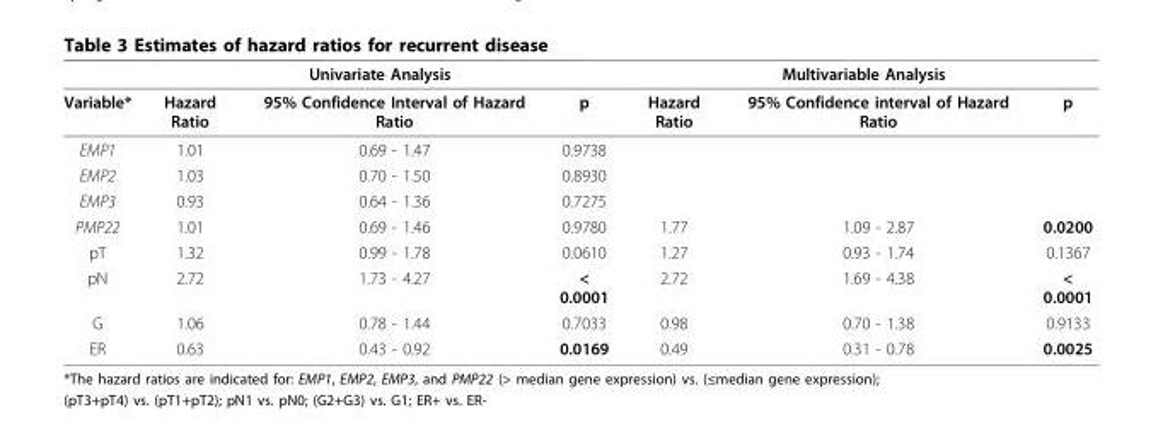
<table><thead><tr><td rowspan="2">Variable*</td><td colspan="3">Univariate Analysis</td><td colspan="3">Multivariable Analysis</td></tr><tr><td>Hazard Ratio</td><td>95% Confidence Interval of Hazard Ratio</td><td>p</td><td>Hazard Ratio</td><td>95% Confidence interval of Hazard Ratio</td><td>p</td></tr></thead><tbody><tr><td>EMP1</td><td>1.01</td><td>0.69 - 1.47</td><td>0.9738</td><td></td><td></td><td></td></tr><tr><td>EMP2</td><td>1.03</td><td>0.70 - 1.50</td><td>0.8930</td><td></td><td></td><td></td></tr><tr><td>EMP3</td><td>0.93</td><td>0.64 - 1.36</td><td>0.7275</td><td></td><td></td><td></td></tr><tr><td>PMP22</td><td>1.01</td><td>0.69 - 1.46</td><td>0.9780</td><td>1.77</td><td>1.09 - 2.87</td><td>0.0200</td></tr><tr><td>pT</td><td>1.32</td><td>0.99 - 1.78</td><td>0.0610</td><td>1.27</td><td>0.93 - 1.74</td><td>0.1367</td></tr><tr><td>pN</td><td>2.72</td><td>1.73 - 4.27</td><td>&lt; 0.0001</td><td>2.72</td><td>1.69 - 4.38</td><td>&lt; 0.0001</td></tr><tr><td>G</td><td>1.06</td><td>0.78 - 1.44</td><td>0.7033</td><td>0.98</td><td>0.70 - 1.38</td><td>0.9133</td></tr><tr><td>ER</td><td>0.63</td><td>0.43 - 0.92</td><td>0.0169</td><td>0.49</td><td>0.31 - 0.78</td><td>0.0025</td></tr></tbody></table>